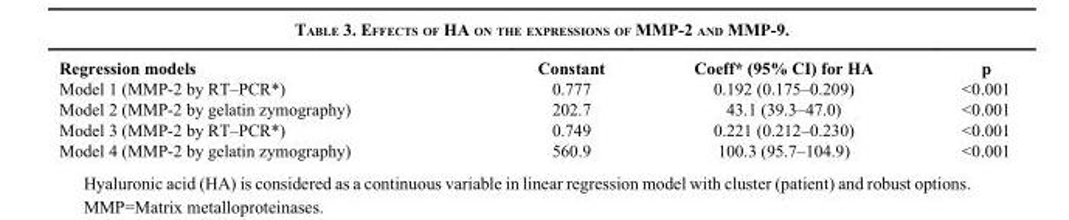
<table><thead><tr><td>Regression models</td><td>Constant</td><td>Coeff* (95% CI) for HA</td><td>p</td></tr></thead><tbody><tr><td>Model 1 (MMP-2 by RT–PCR*)</td><td>0.777</td><td>0.192 (0.175–0.209)</td><td>&lt;0.001</td></tr><tr><td>Model 2 (MMP-2 by gelatin zymography)</td><td>202.7</td><td>43.1 (39.3–47.0)</td><td>&lt;0.001</td></tr><tr><td>Model 3 (MMP-2 by RT–PCR*)</td><td>0.749</td><td>0.221 (0.212–0.230)</td><td>&lt;0.001</td></tr><tr><td>Model 4 (MMP-2 by gelatin zymography)</td><td>560.9</td><td>100.3 (95.7–104.9)</td><td>&lt;0.001</td></tr></tbody></table>